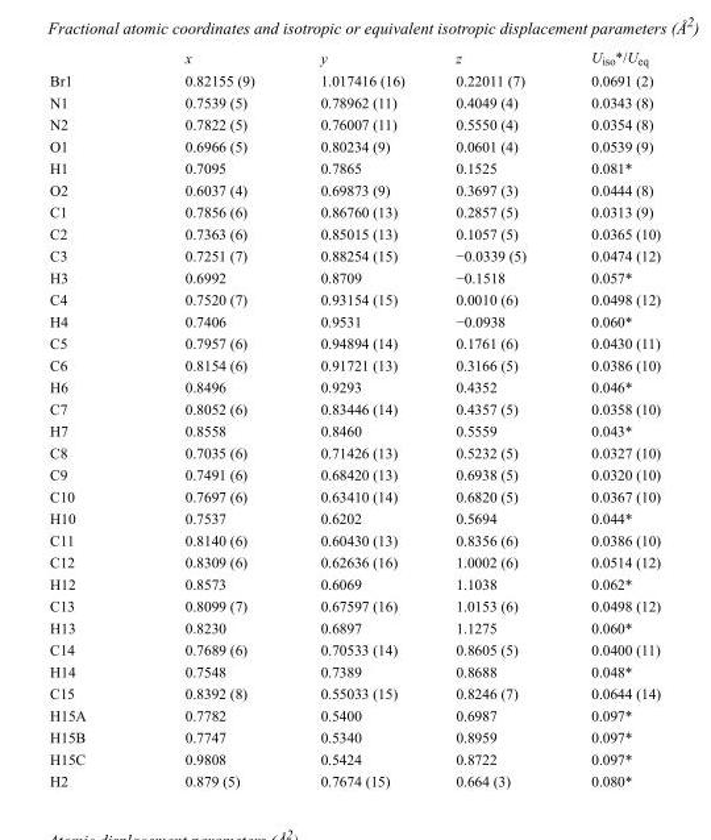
<table><thead><tr><td></td><td>x</td><td>y</td><td>z</td><td>U<sub>iso</sub>*/U<sub>eq</sub></td></tr></thead><tbody><tr><td>Br1</td><td>0.82155 (9)</td><td>1.017416 (16)</td><td>0.22011 (7)</td><td>0.0691 (2)</td></tr><tr><td>N1</td><td>0.7539 (5)</td><td>0.78962 (11)</td><td>0.4049 (4)</td><td>0.0343 (8)</td></tr><tr><td>N2</td><td>0.7822 (5)</td><td>0.76007 (11)</td><td>0.5550 (4)</td><td>0.0354 (8)</td></tr><tr><td>O1</td><td>0.6966 (5)</td><td>0.80234 (9)</td><td>0.0601 (4)</td><td>0.0539 (9)</td></tr><tr><td>H1</td><td>0.7095</td><td>0.7865</td><td>0.1525</td><td>0.081*</td></tr><tr><td>O2</td><td>0.6037 (4)</td><td>0.69873 (9)</td><td>0.3697 (3)</td><td>0.0444 (8)</td></tr><tr><td>C1</td><td>0.7856 (6)</td><td>0.86760 (13)</td><td>0.2857 (5)</td><td>0.0313 (9)</td></tr><tr><td>C2</td><td>0.7363 (6)</td><td>0.85015 (13)</td><td>0.1057 (5)</td><td>0.0365 (10)</td></tr><tr><td>C3</td><td>0.7251 (7)</td><td>0.88254 (15)</td><td>−0.0339 (5)</td><td>0.0474 (12)</td></tr><tr><td>H3</td><td>0.6992</td><td>0.8709</td><td>−0.1518</td><td>0.057*</td></tr><tr><td>C4</td><td>0.7520 (7)</td><td>0.93154 (15)</td><td>0.0010 (6)</td><td>0.0498 (12)</td></tr><tr><td>H4</td><td>0.7406</td><td>0.9531</td><td>−0.0938</td><td>0.060*</td></tr><tr><td>C5</td><td>0.7957 (6)</td><td>0.94894 (14)</td><td>0.1761 (6)</td><td>0.0430 (11)</td></tr><tr><td>C6</td><td>0.8154 (6)</td><td>0.91721 (13)</td><td>0.3166 (5)</td><td>0.0386 (10)</td></tr><tr><td>H6</td><td>0.8496</td><td>0.9293</td><td>0.4352</td><td>0.046*</td></tr><tr><td>C7</td><td>0.8052 (6)</td><td>0.83446 (14)</td><td>0.4357 (5)</td><td>0.0358 (10)</td></tr><tr><td>H7</td><td>0.8558</td><td>0.8460</td><td>0.5559</td><td>0.043*</td></tr><tr><td>C8</td><td>0.7035 (6)</td><td>0.71426 (13)</td><td>0.5232 (5)</td><td>0.0327 (10)</td></tr><tr><td>C9</td><td>0.7491 (6)</td><td>0.68420 (13)</td><td>0.6938 (5)</td><td>0.0320 (10)</td></tr><tr><td>C10</td><td>0.7697 (6)</td><td>0.63410 (14)</td><td>0.6820 (5)</td><td>0.0367 (10)</td></tr><tr><td>H10</td><td>0.7537</td><td>0.6202</td><td>0.5694</td><td>0.044*</td></tr><tr><td>C11</td><td>0.8140 (6)</td><td>0.60430 (13)</td><td>0.8356 (6)</td><td>0.0386 (10)</td></tr><tr><td>C12</td><td>0.8309 (6)</td><td>0.62636 (16)</td><td>1.0002 (6)</td><td>0.0514 (12)</td></tr><tr><td>H12</td><td>0.8573</td><td>0.6069</td><td>1.1038</td><td>0.062*</td></tr><tr><td>C13</td><td>0.8099 (7)</td><td>0.67597 (16)</td><td>1.0153 (6)</td><td>0.0498 (12)</td></tr><tr><td>H13</td><td>0.8230</td><td>0.6897</td><td>1.1275</td><td>0.060*</td></tr><tr><td>C14</td><td>0.7689 (6)</td><td>0.70533 (14)</td><td>0.8605 (5)</td><td>0.0400 (11)</td></tr><tr><td>H14</td><td>0.7548</td><td>0.7389</td><td>0.8688</td><td>0.048*</td></tr><tr><td>C15</td><td>0.8392 (8)</td><td>0.55033 (15)</td><td>0.8246 (7)</td><td>0.0644 (14)</td></tr><tr><td>H15A</td><td>0.7782</td><td>0.5400</td><td>0.6987</td><td>0.097*</td></tr><tr><td>H15B</td><td>0.7747</td><td>0.5340</td><td>0.8959</td><td>0.097*</td></tr><tr><td>H15C</td><td>0.9808</td><td>0.5424</td><td>0.8722</td><td>0.097*</td></tr><tr><td>H2</td><td>0.879 (5)</td><td>0.7674 (15)</td><td>0.664 (3)</td><td>0.080*</td></tr></tbody></table>